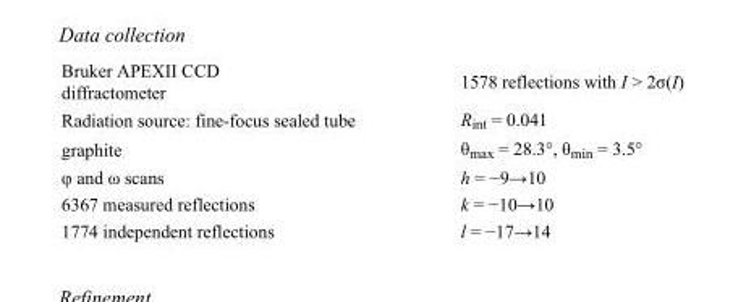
<table><tbody><tr><td>Bruker APEXII CCD diffractometer</td><td>1578 reflections with I &gt; 2σ(I)</td></tr><tr><td>Radiation source: fine-focus sealed tube</td><td>R<sub>int</sub> = 0.041</td></tr><tr><td>graphite</td><td>θ<sub>max</sub> = 28.3°, θ<sub>min</sub> = 3.5°</td></tr><tr><td>φ and ω scans</td><td>h = −9→10</td></tr><tr><td>6367 measured reflections</td><td>k = −10→10</td></tr><tr><td>1774 independent reflections</td><td>l = −17→14</td></tr></tbody></table>